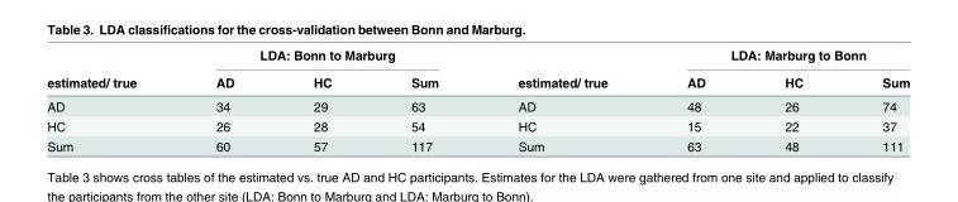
<table><thead><tr><td rowspan="2">estimated/ true</td><td colspan="3">LDA: Bonn to Marburg</td><td rowspan="2">estimated/ true</td><td colspan="3">LDA: Marburg to Bonn</td></tr><tr><td>AD</td><td>HC</td><td>Sum</td><td>AD</td><td>HC</td><td>Sum</td></tr></thead><tbody><tr><td>AD</td><td>34</td><td>29</td><td>63</td><td>AD</td><td>48</td><td>26</td><td>74</td></tr><tr><td>HC</td><td>26</td><td>28</td><td>54</td><td>HC</td><td>15</td><td>22</td><td>37</td></tr><tr><td>Sum</td><td>60</td><td>57</td><td>117</td><td>Sum</td><td>63</td><td>48</td><td>111</td></tr></tbody></table>